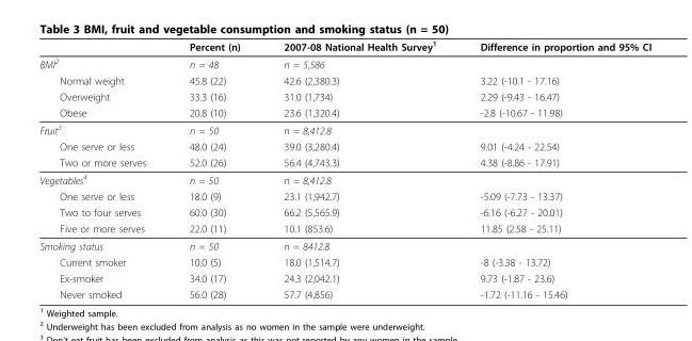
<table><thead><tr><td></td><td>Percent (n)</td><td>2007-08 National Health Survey<sup>1</sup></td><td>Difference in proportion and 95% CI</td></tr></thead><tbody><tr><td>BMI<sup>2</sup></td><td>n = 48</td><td>n = 5,586</td><td></td></tr><tr><td>Normal weight</td><td>45.8 (22)</td><td>42.6 (2,380.3)</td><td>3.22 (-10.1 - 17.16)</td></tr><tr><td>Overweight</td><td>33.3 (16)</td><td>31.0 (1,734)</td><td>2.29 (-9.43 - 16.47)</td></tr><tr><td>Obese</td><td>20.8 (10)</td><td>23.6 (1,320.4)</td><td>-2.8 (-10.67 - 11.98)</td></tr><tr><td>Fruit<sup>3</sup></td><td>n = 50</td><td>n = 8,412.8</td><td></td></tr><tr><td>One serve or less</td><td>48.0 (24)</td><td>39.0 (3,280.4)</td><td>9.01 (-4.24 - 22.54)</td></tr><tr><td>Two or more serves</td><td>52.0 (26)</td><td>56.4 (4,743.3)</td><td>4.38 (-8.86 - 17.91)</td></tr><tr><td>Vegetables<sup>4</sup></td><td>n = 50</td><td>n = 8,412.8</td><td></td></tr><tr><td>One serve or less</td><td>18.0 (9)</td><td>23.1 (1,942.7)</td><td>-5.09 (-7.73 - 13.37)</td></tr><tr><td>Two to four serves</td><td>60.0 (30)</td><td>66.2 (5,565.9)</td><td>-6.16 (-6.27 - 20.01)</td></tr><tr><td>Five or more serves</td><td>22.0 (11)</td><td>10.1 (853.6)</td><td>11.85 (2.58 - 25.11)</td></tr><tr><td>Smoking status</td><td>n = 50</td><td>n = 8412.8</td><td></td></tr><tr><td>Current smoker</td><td>10.0 (5)</td><td>18.0 (1,514.7)</td><td>-8 (-3.38 - 13.72)</td></tr><tr><td>Ex-smoker</td><td>34.0 (17)</td><td>24.3 (2,042.1)</td><td>9.73 (-1.87 - 23.6)</td></tr><tr><td>Never smoked</td><td>56.0 (28)</td><td>57.7 (4,856)</td><td>-1.72 (-11.16 - 15.46)</td></tr></tbody></table>